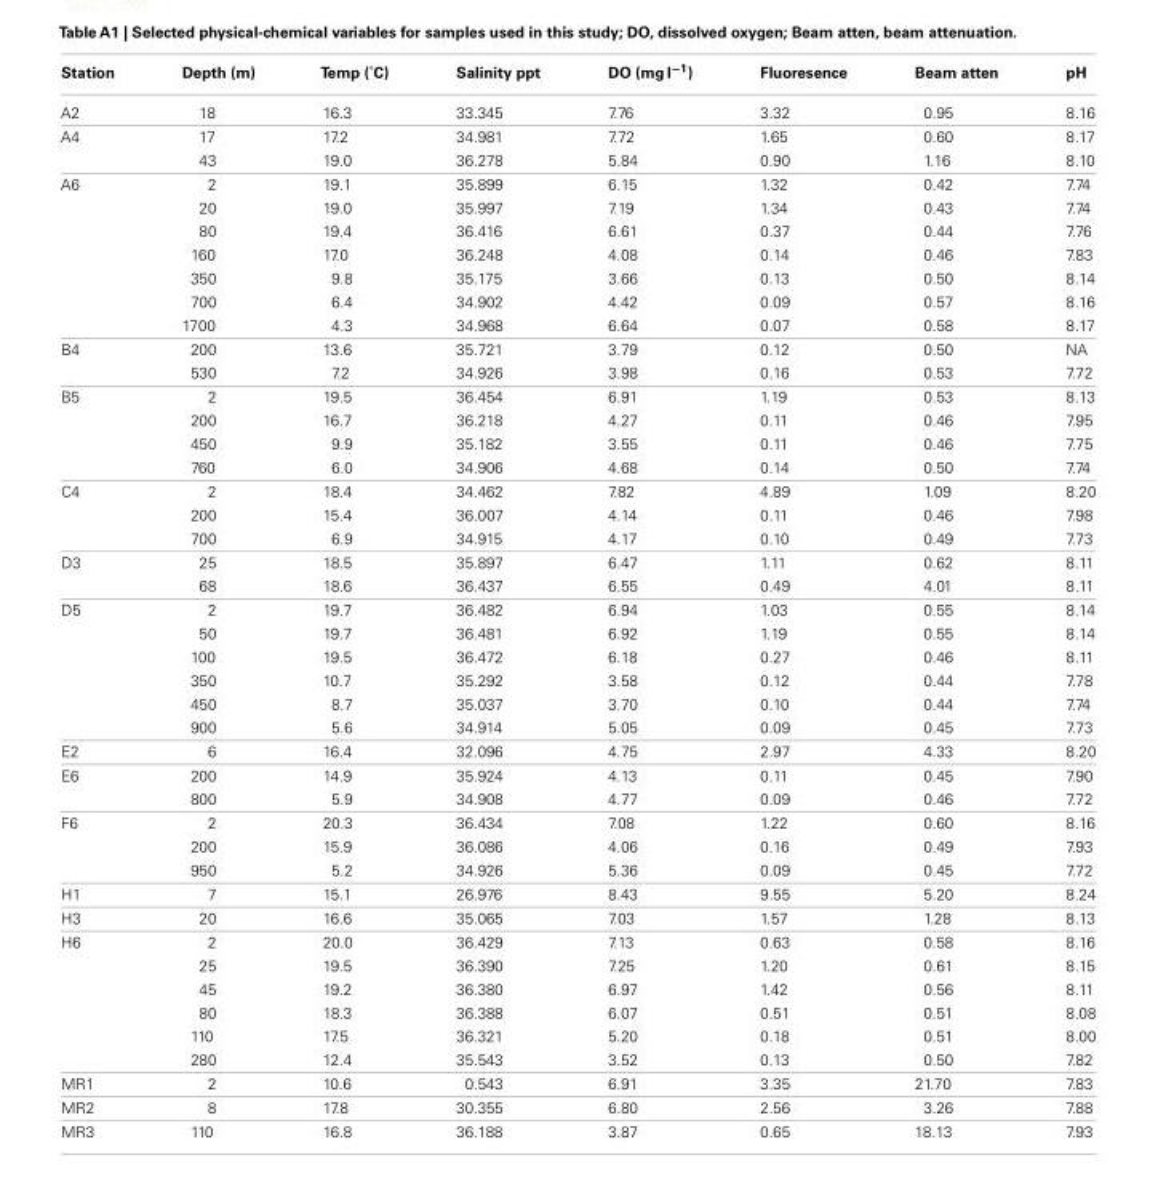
<table><thead><tr><td>Station</td><td>Depth (m)</td><td>Temp (˚C)</td><td>Salinity ppt</td><td>DO (mg l<sup>−1</sup>)</td><td>Fluoresence</td><td>Beam atten</td><td>pH</td></tr></thead><tbody><tr><td>A2</td><td>18</td><td>16.3</td><td>33.345</td><td>7.76</td><td>3.32</td><td>0.95</td><td>8.16</td></tr><tr><td rowspan="2">A4</td><td>17</td><td>17.2</td><td>34.981</td><td>7.72</td><td>1.65</td><td>0.60</td><td>8.17</td></tr><tr><td>43</td><td>19.0</td><td>36.278</td><td>5.84</td><td>0.90</td><td>1.16</td><td>8.10</td></tr><tr><td rowspan="7">A6</td><td>2</td><td>19.1</td><td>35.899</td><td>6.15</td><td>1.32</td><td>0.42</td><td>7.74</td></tr><tr><td>20</td><td>19.0</td><td>35.997</td><td>7.19</td><td>1.34</td><td>0.43</td><td>7.74</td></tr><tr><td>80</td><td>19.4</td><td>36.416</td><td>6.61</td><td>0.37</td><td>0.44</td><td>7.76</td></tr><tr><td>160</td><td>17.0</td><td>36.248</td><td>4.08</td><td>0.14</td><td>0.46</td><td>7.83</td></tr><tr><td>350</td><td>9.8</td><td>35.175</td><td>3.66</td><td>0.13</td><td>0.50</td><td>8.14</td></tr><tr><td>700</td><td>6.4</td><td>34.902</td><td>4.42</td><td>0.09</td><td>0.57</td><td>8.16</td></tr><tr><td>1700</td><td>4.3</td><td>34.968</td><td>6.64</td><td>0.07</td><td>0.58</td><td>8.17</td></tr><tr><td rowspan="2">B4</td><td>200</td><td>13.6</td><td>35.721</td><td>3.79</td><td>0.12</td><td>0.50</td><td>NA</td></tr><tr><td>530</td><td>7.2</td><td>34.926</td><td>3.98</td><td>0.16</td><td>0.53</td><td>7.72</td></tr><tr><td rowspan="4">B5</td><td>2</td><td>19.5</td><td>36.454</td><td>6.91</td><td>1.19</td><td>0.53</td><td>8.13</td></tr><tr><td>200</td><td>16.7</td><td>36.218</td><td>4.27</td><td>0.11</td><td>0.46</td><td>7.95</td></tr><tr><td>450</td><td>9.9</td><td>35.182</td><td>3.55</td><td>0.11</td><td>0.46</td><td>7.75</td></tr><tr><td>760</td><td>6.0</td><td>34.906</td><td>4.68</td><td>0.14</td><td>0.50</td><td>7.74</td></tr><tr><td rowspan="3">C4</td><td>2</td><td>18.4</td><td>34.462</td><td>7.82</td><td>4.89</td><td>1.09</td><td>8.20</td></tr><tr><td>200</td><td>15.4</td><td>36.007</td><td>4.14</td><td>0.11</td><td>0.46</td><td>7.98</td></tr><tr><td>700</td><td>6.9</td><td>34.915</td><td>4.17</td><td>0.10</td><td>0.49</td><td>7.73</td></tr><tr><td rowspan="2">D3</td><td>25</td><td>18.5</td><td>35.897</td><td>6.47</td><td>1.11</td><td>0.62</td><td>8.11</td></tr><tr><td>68</td><td>18.6</td><td>36.437</td><td>6.55</td><td>0.49</td><td>4.01</td><td>8.11</td></tr><tr><td rowspan="6">D5</td><td>2</td><td>19.7</td><td>36.482</td><td>6.94</td><td>1.03</td><td>0.55</td><td>8.14</td></tr><tr><td>50</td><td>19.7</td><td>36.481</td><td>6.92</td><td>1.19</td><td>0.55</td><td>8.14</td></tr><tr><td>100</td><td>19.5</td><td>36.472</td><td>6.18</td><td>0.27</td><td>0.46</td><td>8.11</td></tr><tr><td>350</td><td>10.7</td><td>35.292</td><td>3.58</td><td>0.12</td><td>0.44</td><td>7.78</td></tr><tr><td>450</td><td>8.7</td><td>35.037</td><td>3.70</td><td>0.10</td><td>0.44</td><td>7.74</td></tr><tr><td>900</td><td>5.6</td><td>34.914</td><td>5.05</td><td>0.09</td><td>0.45</td><td>7.73</td></tr><tr><td>E2</td><td>6</td><td>16.4</td><td>32.096</td><td>4.75</td><td>2.97</td><td>4.33</td><td>8.20</td></tr><tr><td rowspan="2">E6</td><td>200</td><td>14.9</td><td>35.924</td><td>4.13</td><td>0.11</td><td>0.45</td><td>7.90</td></tr><tr><td>800</td><td>5.9</td><td>34.908</td><td>4.77</td><td>0.09</td><td>0.46</td><td>7.72</td></tr><tr><td rowspan="3">F6</td><td>2</td><td>20.3</td><td>36.434</td><td>7.08</td><td>1.22</td><td>0.60</td><td>8.16</td></tr><tr><td>200</td><td>15.9</td><td>36.086</td><td>4.06</td><td>0.16</td><td>0.49</td><td>7.93</td></tr><tr><td>950</td><td>5.2</td><td>34.926</td><td>5.36</td><td>0.09</td><td>0.45</td><td>7.72</td></tr><tr><td>H1</td><td>7</td><td>15.1</td><td>26.976</td><td>8.43</td><td>9.55</td><td>5.20</td><td>8.24</td></tr><tr><td>H3</td><td>20</td><td>16.6</td><td>35.065</td><td>7.03</td><td>1.57</td><td>1.28</td><td>8.13</td></tr><tr><td rowspan="6">H6</td><td>2</td><td>20.0</td><td>36.429</td><td>7.13</td><td>0.63</td><td>0.58</td><td>8.16</td></tr><tr><td>25</td><td>19.5</td><td>36.390</td><td>7.25</td><td>1.20</td><td>0.61</td><td>8.15</td></tr><tr><td>45</td><td>19.2</td><td>36.380</td><td>6.97</td><td>1.42</td><td>0.56</td><td>8.11</td></tr><tr><td>80</td><td>18.3</td><td>36.388</td><td>6.07</td><td>0.51</td><td>0.51</td><td>8.08</td></tr><tr><td>110</td><td>17.5</td><td>36.321</td><td>5.20</td><td>0.18</td><td>0.51</td><td>8.00</td></tr><tr><td>280</td><td>12.4</td><td>35.543</td><td>3.52</td><td>0.13</td><td>0.50</td><td>7.82</td></tr><tr><td>MR1</td><td>2</td><td>10.6</td><td>0.543</td><td>6.91</td><td>3.35</td><td>21.70</td><td>7.83</td></tr><tr><td>MR2</td><td>8</td><td>17.8</td><td>30.355</td><td>6.80</td><td>2.56</td><td>3.26</td><td>7.88</td></tr><tr><td>MR3</td><td>110</td><td>16.8</td><td>36.188</td><td>3.87</td><td>0.65</td><td>18.13</td><td>7.93</td></tr></tbody></table>